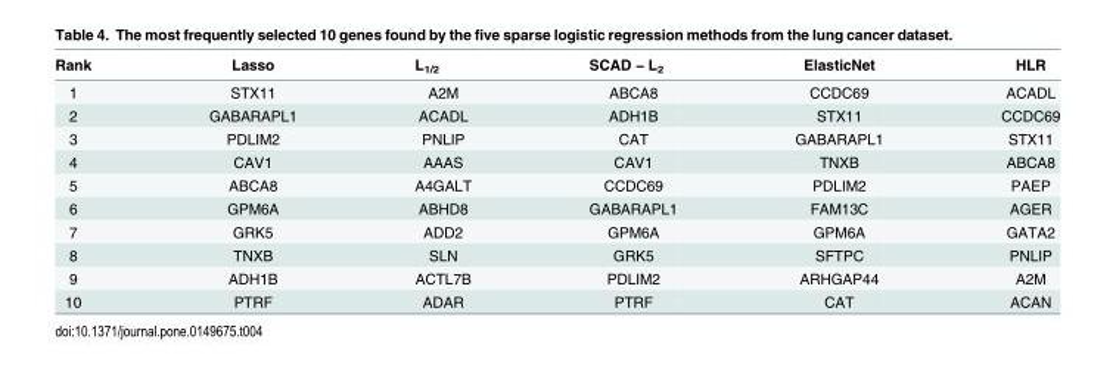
<table><thead><tr><td>Rank</td><td>Lasso</td><td>L<sub>1/2</sub></td><td>SCAD − L<sub>2</sub></td><td>ElasticNet</td><td>HLR</td></tr></thead><tbody><tr><td>1</td><td>STX11</td><td>A2M</td><td>ABCA8</td><td>CCDC69</td><td>ACADL</td></tr><tr><td>2</td><td>GABARAPL1</td><td>ACADL</td><td>ADH1B</td><td>STX11</td><td>CCDC69</td></tr><tr><td>3</td><td>PDLIM2</td><td>PNLIP</td><td>CAT</td><td>GABARAPL1</td><td>STX11</td></tr><tr><td>4</td><td>CAV1</td><td>AAAS</td><td>CAV1</td><td>TNXB</td><td>ABCA8</td></tr><tr><td>5</td><td>ABCA8</td><td>A4GALT</td><td>CCDC69</td><td>PDLIM2</td><td>PAEP</td></tr><tr><td>6</td><td>GPM6A</td><td>ABHD8</td><td>GABARAPL1</td><td>FAM13C</td><td>AGER</td></tr><tr><td>7</td><td>GRK5</td><td>ADD2</td><td>GPM6A</td><td>GPM6A</td><td>GATA2</td></tr><tr><td>8</td><td>TNXB</td><td>SLN</td><td>GRK5</td><td>SFTPC</td><td>PNLIP</td></tr><tr><td>9</td><td>ADH1B</td><td>ACTL7B</td><td>PDLIM2</td><td>ARHGAP44</td><td>A2M</td></tr><tr><td>10</td><td>PTRF</td><td>ADAR</td><td>PTRF</td><td>CAT</td><td>ACAN</td></tr></tbody></table>